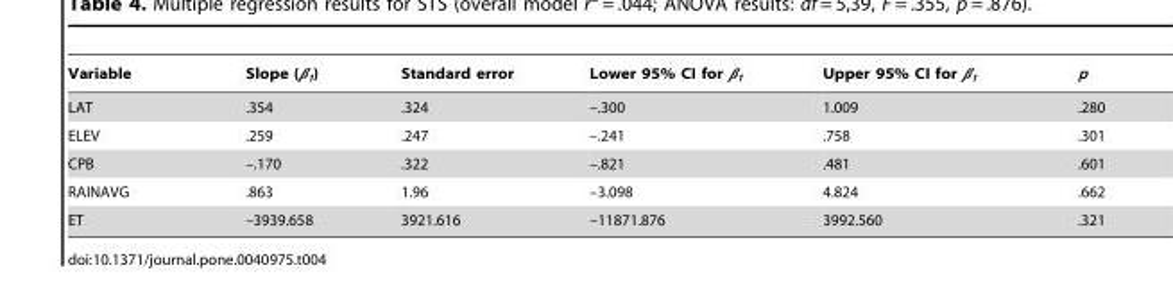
<table><thead><tr><td>Variable</td><td>Slope (β<sub>1</sub>)</td><td>Standard error</td><td>Lower 95% CI for β<sub>1</sub></td><td>Upper 95% CI for β<sub>1</sub></td><td>p</td></tr></thead><tbody><tr><td>LAT</td><td>.354</td><td>.324</td><td>–.300</td><td>1.009</td><td>.280</td></tr><tr><td>ELEV</td><td>.259</td><td>.247</td><td>–.241</td><td>.758</td><td>.301</td></tr><tr><td>CPB</td><td>–.170</td><td>.322</td><td>–.821</td><td>.481</td><td>.601</td></tr><tr><td>RAINAVG</td><td>.863</td><td>1.96</td><td>–3.098</td><td>4.824</td><td>.662</td></tr><tr><td>ET</td><td>–3939.658</td><td>3921.616</td><td>–11871.876</td><td>3992.560</td><td>.321</td></tr></tbody></table>